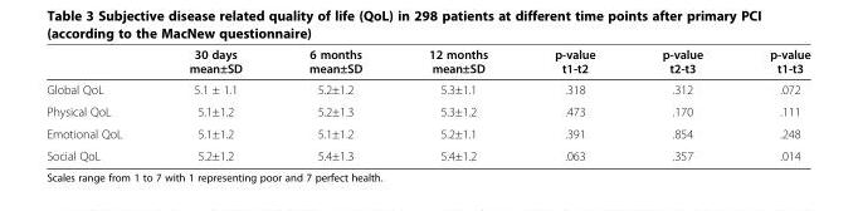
<table><thead><tr><td></td><td>30 days mean±SD</td><td>6 months mean±SD</td><td>12 months mean±SD</td><td>p-value t1-t2</td><td>p-value t2-t3</td><td>p-value t1-t3</td></tr></thead><tbody><tr><td>Global QoL</td><td>5.1 ± 1.1</td><td>5.2±1.2</td><td>5.3±1.1</td><td>.318</td><td>.312</td><td>.072</td></tr><tr><td>Physical QoL</td><td>5.1±1.2</td><td>5.2±1.3</td><td>5.3±1.2</td><td>.473</td><td>.170</td><td>.111</td></tr><tr><td>Emotional QoL</td><td>5.1±1.2</td><td>5.1±1.2</td><td>5.2±1.1</td><td>.391</td><td>.854</td><td>.248</td></tr><tr><td>Social QoL</td><td>5.2±1.2</td><td>5.4±1.3</td><td>5.4±1.2</td><td>.063</td><td>.357</td><td>.014</td></tr></tbody></table>